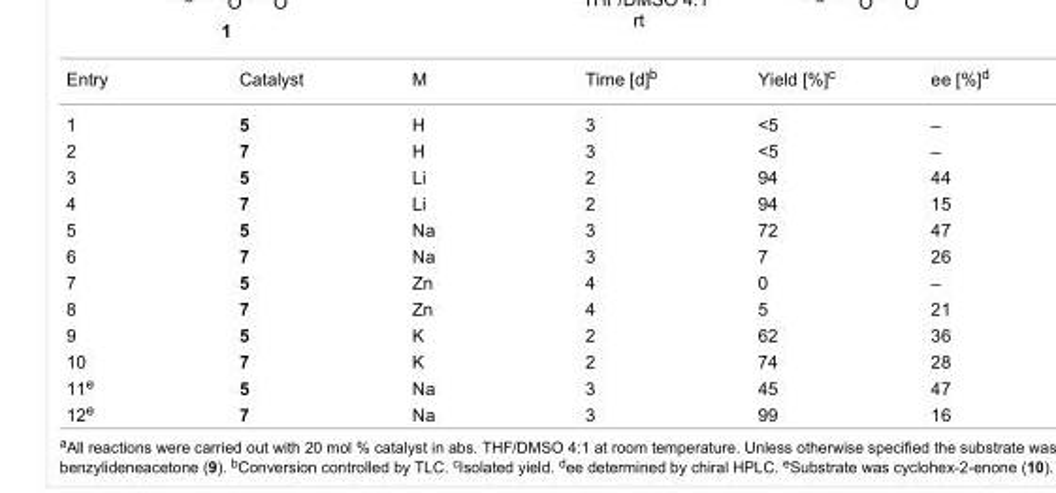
<table><tbody><tr><td>Entry</td><td>Catalyst</td><td>M</td><td>Time [d]<sup>b</sup></td><td>Yield [%]<sup>c</sup></td><td>ee [%]<sup>d</sup></td></tr><tr><td>1</td><td>5</td><td>H</td><td>3</td><td>&lt;5</td><td>–</td></tr><tr><td>2</td><td>7</td><td>H</td><td>3</td><td>&lt;5</td><td>–</td></tr><tr><td>3</td><td>5</td><td>Li</td><td>2</td><td>94</td><td>44</td></tr><tr><td>4</td><td>7</td><td>Li</td><td>2</td><td>94</td><td>15</td></tr><tr><td>5</td><td>5</td><td>Na</td><td>3</td><td>72</td><td>47</td></tr><tr><td>6</td><td>7</td><td>Na</td><td>3</td><td>7</td><td>26</td></tr><tr><td>7</td><td>5</td><td>Zn</td><td>4</td><td>0</td><td>–</td></tr><tr><td>8</td><td>7</td><td>Zn</td><td>4</td><td>5</td><td>21</td></tr><tr><td>9</td><td>5</td><td>K</td><td>2</td><td>62</td><td>36</td></tr><tr><td>10</td><td>7</td><td>K</td><td>2</td><td>74</td><td>28</td></tr><tr><td>11<sup>e</sup></td><td>5</td><td>Na</td><td>3</td><td>45</td><td>47</td></tr><tr><td>12<sup>e</sup></td><td>7</td><td>Na</td><td>3</td><td>99</td><td>16</td></tr></tbody></table>